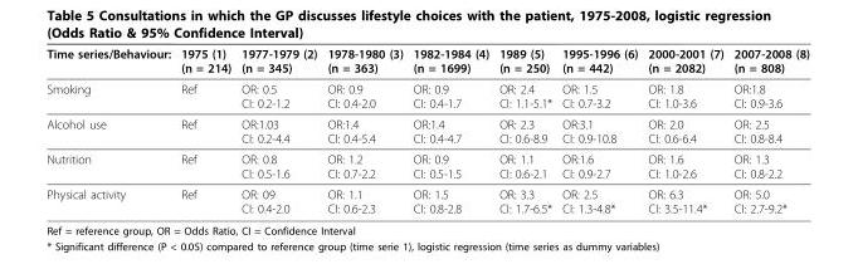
<table><thead><tr><td>Time series/Behaviour:</td><td>1975 (1) (n = 214)</td><td>1977-1979 (2) (n = 345)</td><td>1978-1980 (3) (n = 363)</td><td>1982-1984 (4) (n = 1699)</td><td>1989 (5) (n = 250)</td><td>1995-1996 (6) (n = 442)</td><td>2000-2001 (7) (n = 2082)</td><td>2007-2008 (8) (n = 808)</td></tr></thead><tbody><tr><td>Smoking</td><td>Ref</td><td>OR: 0.5 CI: 0.2-1.2</td><td>OR: 0.9 CI: 0.4-2.0</td><td>OR: 0.9 CI: 0.4-1.7</td><td>OR: 2.4 CI: 1.1-5.1*</td><td>OR: 1.5 CI: 0.7-3.2</td><td>OR: 1.8 CI: 1.0-3.6</td><td>OR:1.8 CI: 0.9-3.6</td></tr><tr><td>Alcohol use</td><td>Ref</td><td>OR:1.03 CI: 0.2-4.4</td><td>OR:1.4 CI: 0.4-5.4</td><td>OR:1.4 CI: 0.4-4.7</td><td>OR: 2.3 CI: 0.6-8.9</td><td>OR:3.1 CI: 0.9-10.8</td><td>OR: 2.0 CI: 0.6-6.4</td><td>OR: 2.5 CI: 0.8-8.4</td></tr><tr><td>Nutrition</td><td>Ref</td><td>OR: 0.8 CI: 0.5-1.6</td><td>OR: 1.2 CI: 0.7-2.2</td><td>OR: 0.9 CI: 0.5-1.5</td><td>OR: 1.1 CI: 0.6-2.1</td><td>OR:1.6 CI: 0.9-2.7</td><td>OR: 1.6 CI: 1.0-2.6</td><td>OR: 1.3 CI: 0.8-2.2</td></tr><tr><td>Physical activity</td><td>Ref</td><td>OR: 09 CI: 0.4-2.0</td><td>OR: 1.1 CI: 0.6-2.3</td><td>OR: 1.5 CI: 0.8-2.8</td><td>OR: 3.3 CI: 1.7-6.5*</td><td>OR: 2.5 CI: 1.3-4.8*</td><td>OR: 6.3 CI: 3.5-11.4*</td><td>OR: 5.0 CI: 2.7-9.2*</td></tr></tbody></table>